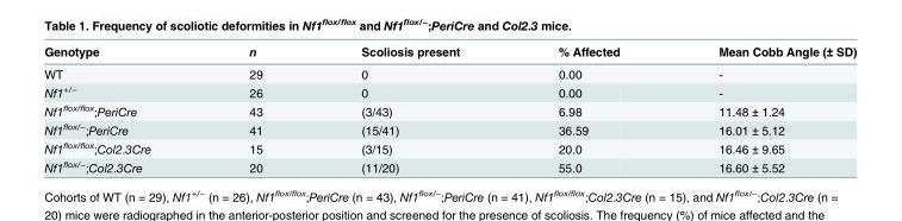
<table><thead><tr><td>Genotype</td><td>n</td><td>Scoliosis present</td><td>% Affected</td><td>Mean Cobb Angle (± SD)</td></tr></thead><tbody><tr><td>WT</td><td>29</td><td>0</td><td>0.00</td><td>-</td></tr><tr><td>Nf1<sup>+/−</sup></td><td>26</td><td>0</td><td>0.00</td><td>-</td></tr><tr><td>Nf1<sup>flox/flox</sup>;PeriCre</td><td>43</td><td>(3/43)</td><td>6.98</td><td>11.48 ± 1.24</td></tr><tr><td>Nf1<sup>flox/−</sup>;PeriCre</td><td>41</td><td>(15/41)</td><td>36.59</td><td>16.01 ± 5.12</td></tr><tr><td>Nf1<sup>flox/flox</sup>;Col2.3Cre</td><td>15</td><td>(3/15)</td><td>20.0</td><td>16.46 ± 9.65</td></tr><tr><td>Nf1<sup>flox/−</sup>;Col2.3Cre</td><td>20</td><td>(11/20)</td><td>55.0</td><td>16.60 ± 5.52</td></tr></tbody></table>